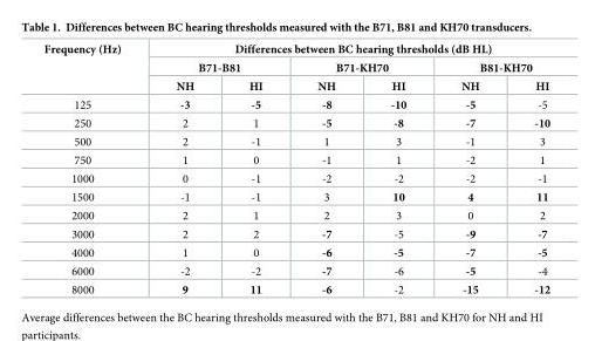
<table><thead><tr><td rowspan="3">Frequency (Hz)</td><td colspan="6">Differences between BC hearing thresholds (dB HL)</td></tr><tr><td colspan="2">B71-B81</td><td colspan="2">B71-KH70</td><td colspan="2">B81-KH70</td></tr><tr><td>NH</td><td>HI</td><td>NH</td><td>HI</td><td>NH</td><td>HI</td></tr></thead><tbody><tr><td>125</td><td>-3</td><td>-5</td><td>-8</td><td>-10</td><td>-5</td><td>-5</td></tr><tr><td>250</td><td>2</td><td>1</td><td>-5</td><td>-8</td><td>-7</td><td>-10</td></tr><tr><td>500</td><td>2</td><td>-1</td><td>1</td><td>3</td><td>-1</td><td>3</td></tr><tr><td>750</td><td>1</td><td>0</td><td>-1</td><td>1</td><td>-2</td><td>1</td></tr><tr><td>1000</td><td>0</td><td>-1</td><td>-2</td><td>-2</td><td>-2</td><td>-1</td></tr><tr><td>1500</td><td>-1</td><td>-1</td><td>3</td><td>10</td><td>4</td><td>11</td></tr><tr><td>2000</td><td>2</td><td>1</td><td>2</td><td>3</td><td>0</td><td>2</td></tr><tr><td>3000</td><td>2</td><td>2</td><td>-7</td><td>-5</td><td>-9</td><td>-7</td></tr><tr><td>4000</td><td>1</td><td>0</td><td>-6</td><td>-5</td><td>-7</td><td>-5</td></tr><tr><td>6000</td><td>-2</td><td>-2</td><td>-7</td><td>-6</td><td>-5</td><td>-4</td></tr><tr><td>8000</td><td>9</td><td>11</td><td>-6</td><td>-2</td><td>-15</td><td>-12</td></tr></tbody></table>